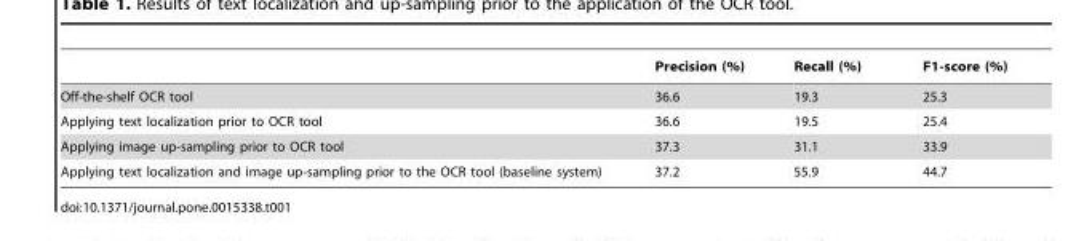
<table><thead><tr><td></td><td>Precision (%)</td><td>Recall (%)</td><td>F1-score (%)</td></tr></thead><tbody><tr><td>Off-the-shelf OCR tool</td><td>36.6</td><td>19.3</td><td>25.3</td></tr><tr><td>Applying text localization prior to OCR tool</td><td>36.6</td><td>19.5</td><td>25.4</td></tr><tr><td>Applying image up-sampling prior to OCR tool</td><td>37.3</td><td>31.1</td><td>33.9</td></tr><tr><td>Applying text localization and image up-sampling prior to the OCR tool (baseline system)</td><td>37.2</td><td>55.9</td><td>44.7</td></tr></tbody></table>